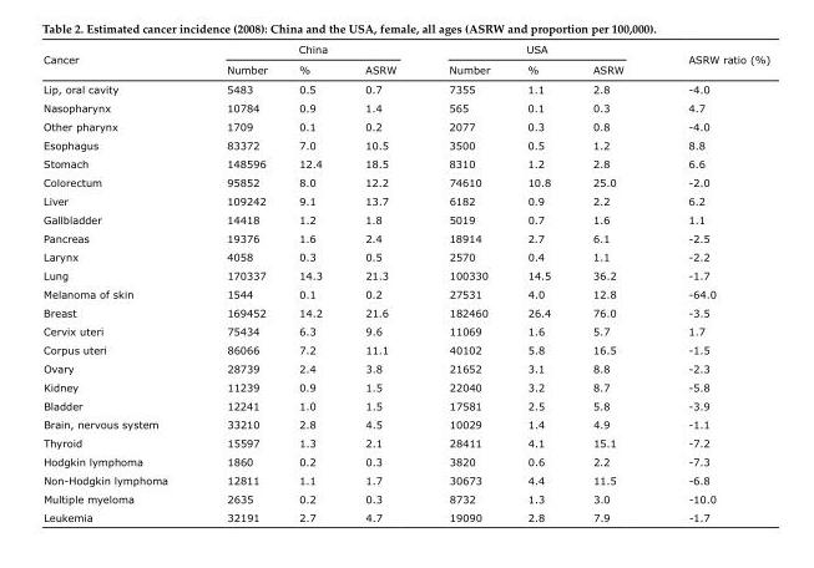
<table><thead><tr><td rowspan="2">Cancer</td><td colspan="3">China</td><td colspan="3">USA</td><td rowspan="2">ASRW ratio (%)</td></tr><tr><td>Number</td><td>%</td><td>ASRW</td><td>Number</td><td>%</td><td>ASRW</td></tr></thead><tbody><tr><td>Lip, oral cavity</td><td>5483</td><td>0.5</td><td>0.7</td><td>7355</td><td>1.1</td><td>2.8</td><td>-4.0</td></tr><tr><td>Nasopharynx</td><td>10784</td><td>0.9</td><td>1.4</td><td>565</td><td>0.1</td><td>0.3</td><td>4.7</td></tr><tr><td>Other pharynx</td><td>1709</td><td>0.1</td><td>0.2</td><td>2077</td><td>0.3</td><td>0.8</td><td>-4.0</td></tr><tr><td>Esophagus</td><td>83372</td><td>7.0</td><td>10.5</td><td>3500</td><td>0.5</td><td>1.2</td><td>8.8</td></tr><tr><td>Stomach</td><td>148596</td><td>12.4</td><td>18.5</td><td>8310</td><td>1.2</td><td>2.8</td><td>6.6</td></tr><tr><td>Colorectum</td><td>95852</td><td>8.0</td><td>12.2</td><td>74610</td><td>10.8</td><td>25.0</td><td>-2.0</td></tr><tr><td>Liver</td><td>109242</td><td>9.1</td><td>13.7</td><td>6182</td><td>0.9</td><td>2.2</td><td>6.2</td></tr><tr><td>Gallbladder</td><td>14418</td><td>1.2</td><td>1.8</td><td>5019</td><td>0.7</td><td>1.6</td><td>1.1</td></tr><tr><td>Pancreas</td><td>19376</td><td>1.6</td><td>2.4</td><td>18914</td><td>2.7</td><td>6.1</td><td>-2.5</td></tr><tr><td>Larynx</td><td>4058</td><td>0.3</td><td>0.5</td><td>2570</td><td>0.4</td><td>1.1</td><td>-2.2</td></tr><tr><td>Lung</td><td>170337</td><td>14.3</td><td>21.3</td><td>100330</td><td>14.5</td><td>36.2</td><td>-1.7</td></tr><tr><td>Melanoma of skin</td><td>1544</td><td>0.1</td><td>0.2</td><td>27531</td><td>4.0</td><td>12.8</td><td>-64.0</td></tr><tr><td>Breast</td><td>169452</td><td>14.2</td><td>21.6</td><td>182460</td><td>26.4</td><td>76.0</td><td>-3.5</td></tr><tr><td>Cervix uteri</td><td>75434</td><td>6.3</td><td>9.6</td><td>11069</td><td>1.6</td><td>5.7</td><td>1.7</td></tr><tr><td>Corpus uteri</td><td>86066</td><td>7.2</td><td>11.1</td><td>40102</td><td>5.8</td><td>16.5</td><td>-1.5</td></tr><tr><td>Ovary</td><td>28739</td><td>2.4</td><td>3.8</td><td>21652</td><td>3.1</td><td>8.8</td><td>-2.3</td></tr><tr><td>Kidney</td><td>11239</td><td>0.9</td><td>1.5</td><td>22040</td><td>3.2</td><td>8.7</td><td>-5.8</td></tr><tr><td>Bladder</td><td>12241</td><td>1.0</td><td>1.5</td><td>17581</td><td>2.5</td><td>5.8</td><td>-3.9</td></tr><tr><td>Brain, nervous system</td><td>33210</td><td>2.8</td><td>4.5</td><td>10029</td><td>1.4</td><td>4.9</td><td>-1.1</td></tr><tr><td>Thyroid</td><td>15597</td><td>1.3</td><td>2.1</td><td>28411</td><td>4.1</td><td>15.1</td><td>-7.2</td></tr><tr><td>Hodgkin lymphoma</td><td>1860</td><td>0.2</td><td>0.3</td><td>3820</td><td>0.6</td><td>2.2</td><td>-7.3</td></tr><tr><td>Non-Hodgkin lymphoma</td><td>12811</td><td>1.1</td><td>1.7</td><td>30673</td><td>4.4</td><td>11.5</td><td>-6.8</td></tr><tr><td>Multiple myeloma</td><td>2635</td><td>0.2</td><td>0.3</td><td>8732</td><td>1.3</td><td>3.0</td><td>-10.0</td></tr><tr><td>Leukemia</td><td>32191</td><td>2.7</td><td>4.7</td><td>19090</td><td>2.8</td><td>7.9</td><td>-1.7</td></tr></tbody></table>